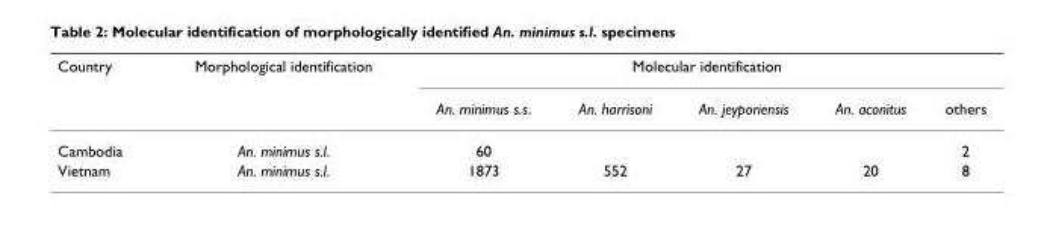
<table><thead><tr><td rowspan="2">Country</td><td rowspan="2">Morphological identification</td><td colspan="5">Molecular identification</td></tr><tr><td>An. minimus s.s.</td><td>An. harrisoni</td><td>An. jeyporiensis</td><td>An. aconitus</td><td>others</td></tr></thead><tbody><tr><td>Cambodia</td><td>An. minimus s.l.</td><td>60</td><td></td><td></td><td></td><td>2</td></tr><tr><td>Vietnam</td><td>An. minimus s.l.</td><td>1873</td><td>552</td><td>27</td><td>20</td><td>8</td></tr></tbody></table>